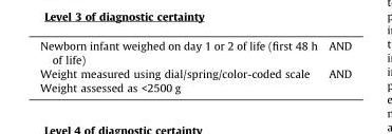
<table><tbody><tr><td>Newborn infant weighed on day 1 or 2 of life (first 48 h of life)</td><td>AND</td></tr><tr><td>Weight measured using dial/spring/color-coded scale</td><td>AND</td></tr><tr><td>Weight assessed as &lt;2500 g</td><td></td></tr></tbody></table>